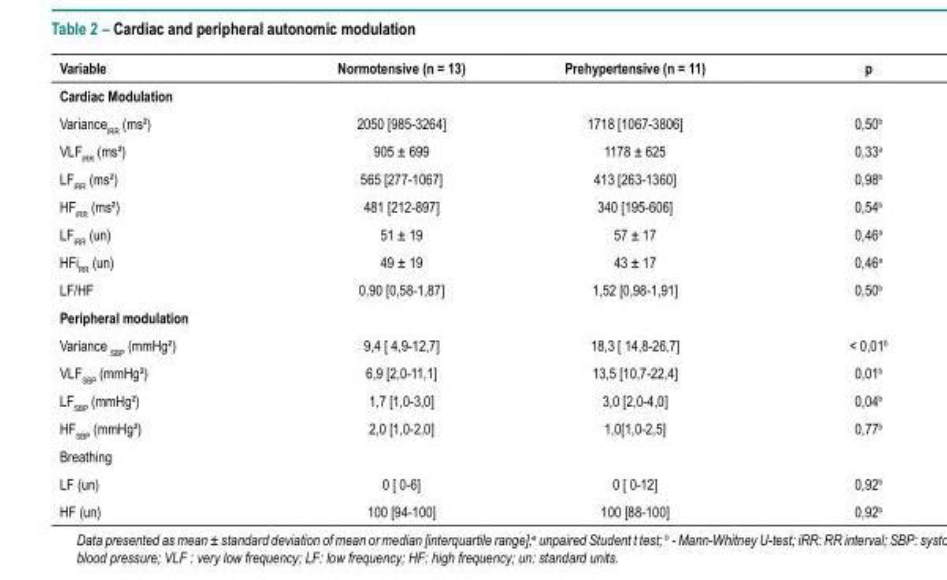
<table><thead><tr><td>Variable</td><td>Normotensive (n = 13)</td><td>Prehypertensive (n = 11)</td><td>p</td></tr></thead><tbody><tr><td colspan="4">Cardiac Modulation</td></tr><tr><td>Variance<sub>IRR</sub> (ms²)</td><td>2050 [985-3264]</td><td>1718 [1067-3806]</td><td>0,50<sup>b</sup></td></tr><tr><td>VLF<sub>iRR</sub> (ms²)</td><td>905 ± 699</td><td>1178 ± 625</td><td>0,33<sup>a</sup></td></tr><tr><td>LF<sub>iRR</sub> (ms²)</td><td>565 [277-1067]</td><td>413 [263-1360]</td><td>0,98<sup>b</sup></td></tr><tr><td>HF<sub>iRR</sub> (ms²)</td><td>481 [212-897]</td><td>340 [195-606]</td><td>0,54<sup>b</sup></td></tr><tr><td>LF<sub>iRR</sub> (un)</td><td>51 ± 19</td><td>57 ± 17</td><td>0,46<sup>a</sup></td></tr><tr><td>HFi<sub>RR</sub> (un)</td><td>49 ± 19</td><td>43 ± 17</td><td>0,46<sup>a</sup></td></tr><tr><td>LF/HF</td><td>0,90 [0,58-1,87]</td><td>1,52 [0,98-1,91]</td><td>0,50<sup>b</sup></td></tr><tr><td colspan="4">Peripheral modulation</td></tr><tr><td>Variance <sub>SBP</sub> (mmHg²)</td><td>9,4 [ 4,9-12,7]</td><td>18,3 [ 14,8-26,7]</td><td>&lt; 0,01<sup>b</sup></td></tr><tr><td>VLF<sub>SBP</sub> (mmHg²)</td><td>6,9 [2,0-11,1]</td><td>13,5 [10,7-22,4]</td><td>0,01<sup>b</sup></td></tr><tr><td>LF<sub>SBP</sub> (mmHg²)</td><td>1,7 [1,0-3,0]</td><td>3,0 [2,0-4,0]</td><td>0,04<sup>b</sup></td></tr><tr><td>HF<sub>SBP</sub> (mmHg²)</td><td>2,0 [1,0-2,0]</td><td>1,0[1,0-2,5]</td><td>0,77<sup>b</sup></td></tr><tr><td colspan="4">Breathing</td></tr><tr><td>LF (un)</td><td>0 [ 0-6]</td><td>0 [ 0-12]</td><td>0,92<sup>b</sup></td></tr><tr><td>HF (un)</td><td>100 [94-100]</td><td>100 [88-100]</td><td>0,92<sup>b</sup></td></tr></tbody></table>